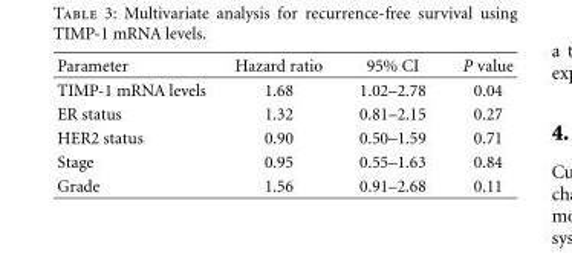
<table><thead><tr><td>Parameter</td><td>Hazard ratio</td><td>95% CI</td><td>P value</td></tr></thead><tbody><tr><td>TIMP-1 mRNA levels</td><td>1.68</td><td>1.02–2.78</td><td>0.04</td></tr><tr><td>ER status</td><td>1.32</td><td>0.81–2.15</td><td>0.27</td></tr><tr><td>HER2 status</td><td>0.90</td><td>0.50–1.59</td><td>0.71</td></tr><tr><td>Stage</td><td>0.95</td><td>0.55–1.63</td><td>0.84</td></tr><tr><td>Grade</td><td>1.56</td><td>0.91–2.68</td><td>0.11</td></tr></tbody></table>